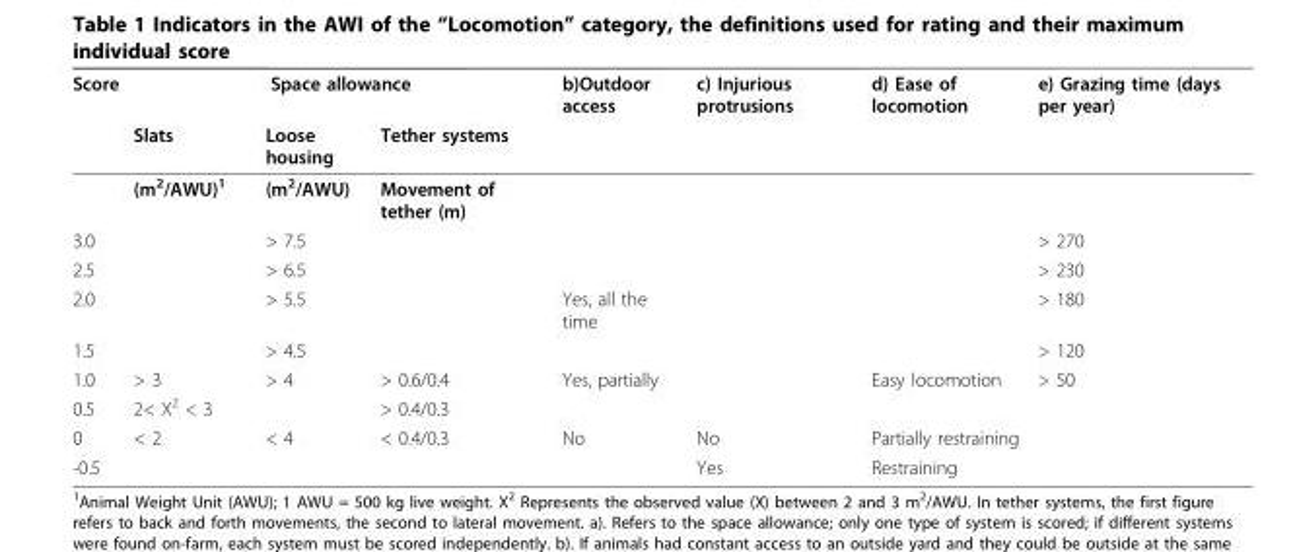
<table><thead><tr><td rowspan="2">Score</td><td colspan="3">Space allowance</td><td rowspan="2">b)Outdoor access</td><td rowspan="2">c) Injurious protrusions</td><td rowspan="2">d) Ease of locomotion</td><td rowspan="2">e) Grazing time (days per year)</td></tr><tr><td>Slats</td><td>Loose housing</td><td>Tether systems</td></tr></thead><tbody><tr><td></td><td>(m<sup>2</sup>/AWU)<sup>1</sup></td><td>(m<sup>2</sup>/AWU)</td><td>Movement of tether (m)</td><td></td><td></td><td></td><td></td></tr><tr><td>3.0</td><td></td><td>&gt; 7.5</td><td></td><td></td><td></td><td></td><td>&gt; 270</td></tr><tr><td>2.5</td><td></td><td>&gt; 6.5</td><td></td><td></td><td></td><td></td><td>&gt; 230</td></tr><tr><td>2.0</td><td></td><td>&gt; 5.5</td><td></td><td>Yes, all the time</td><td></td><td></td><td>&gt; 180</td></tr><tr><td>1.5</td><td></td><td>&gt; 4.5</td><td></td><td></td><td></td><td></td><td>&gt; 120</td></tr><tr><td>1.0</td><td>&gt; 3</td><td>&gt; 4</td><td>&gt; 0.6/0.4</td><td>Yes, partially</td><td></td><td>Easy locomotion</td><td>&gt; 50</td></tr><tr><td>0.5</td><td>2&lt; X<sup>2</sup> &lt; 3</td><td></td><td>&gt; 0.4/0.3</td><td></td><td></td><td></td><td></td></tr><tr><td>0</td><td>&lt; 2</td><td>&lt; 4</td><td>&lt; 0.4/0.3</td><td>No</td><td>No</td><td>Partially restraining</td><td></td></tr><tr><td>-0.5</td><td></td><td></td><td></td><td></td><td>Yes</td><td>Restraining</td><td></td></tr></tbody></table>